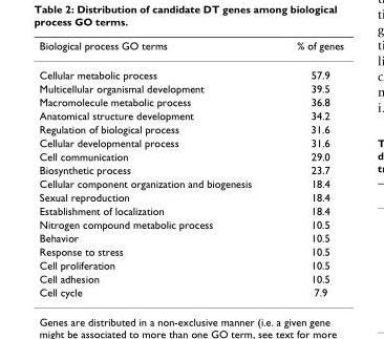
<table><thead><tr><td>Biological process GO terms</td><td>% of genes</td></tr></thead><tbody><tr><td>Cellular metabolic process</td><td>57.9</td></tr><tr><td>Multicellular organismal development</td><td>39.5</td></tr><tr><td>Macromolecule metabolic process</td><td>36.8</td></tr><tr><td>Anatomical structure development</td><td>34.2</td></tr><tr><td>Regulation of biological process</td><td>31.6</td></tr><tr><td>Cellular developmental process</td><td>31.6</td></tr><tr><td>Cell communication</td><td>29.0</td></tr><tr><td>Biosynthetic process</td><td>23.7</td></tr><tr><td>Cellular component organization and biogenesis</td><td>18.4</td></tr><tr><td>Sexual reproduction</td><td>18.4</td></tr><tr><td>Establishment of localization</td><td>18.4</td></tr><tr><td>Nitrogen compound metabolic process</td><td>10.5</td></tr><tr><td>Behavior</td><td>10.5</td></tr><tr><td>Response to stress</td><td>10.5</td></tr><tr><td>Cell proliferation</td><td>10.5</td></tr><tr><td>Cell adhesion</td><td>10.5</td></tr><tr><td>Cell cycle</td><td>7.9</td></tr></tbody></table>